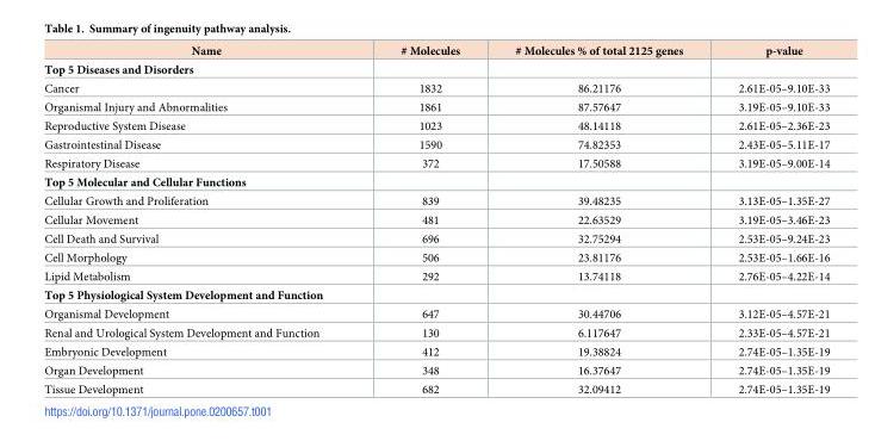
<table><thead><tr><td>Name</td><td># Molecules</td><td># Molecules % of total 2125 genes</td><td>p-value</td></tr></thead><tbody><tr><td colspan="4">Top 5 Diseases and Disorders</td></tr><tr><td>Cancer</td><td>1832</td><td>86.21176</td><td>2.61E-05–9.10E-33</td></tr><tr><td>Organismal Injury and Abnormalities</td><td>1861</td><td>87.57647</td><td>3.19E-05–9.10E-33</td></tr><tr><td>Reproductive System Disease</td><td>1023</td><td>48.14118</td><td>2.61E-05–2.36E-23</td></tr><tr><td>Gastrointestinal Disease</td><td>1590</td><td>74.82353</td><td>2.43E-05–5.11E-17</td></tr><tr><td>Respiratory Disease</td><td>372</td><td>17.50588</td><td>3.19E-05–9.00E-14</td></tr><tr><td colspan="4">Top 5 Molecular and Cellular Functions</td></tr><tr><td>Cellular Growth and Proliferation</td><td>839</td><td>39.48235</td><td>3.13E-05–1.35E-27</td></tr><tr><td>Cellular Movement</td><td>481</td><td>22.63529</td><td>3.19E-05–3.46E-23</td></tr><tr><td>Cell Death and Survival</td><td>696</td><td>32.75294</td><td>2.53E-05–9.24E-23</td></tr><tr><td>Cell Morphology</td><td>506</td><td>23.81176</td><td>2.53E-05–1.66E-16</td></tr><tr><td>Lipid Metabolism</td><td>292</td><td>13.74118</td><td>2.76E-05–4.22E-14</td></tr><tr><td colspan="4">Top 5 Physiological System Development and Function</td></tr><tr><td>Organismal Development</td><td>647</td><td>30.44706</td><td>3.12E-05–4.57E-21</td></tr><tr><td>Renal and Urological System Development and Function</td><td>130</td><td>6.117647</td><td>2.33E-05–4.57E-21</td></tr><tr><td>Embryonic Development</td><td>412</td><td>19.38824</td><td>2.74E-05–1.35E-19</td></tr><tr><td>Organ Development</td><td>348</td><td>16.37647</td><td>2.74E-05–1.35E-19</td></tr><tr><td>Tissue Development</td><td>682</td><td>32.09412</td><td>2.74E-05–1.35E-19</td></tr></tbody></table>